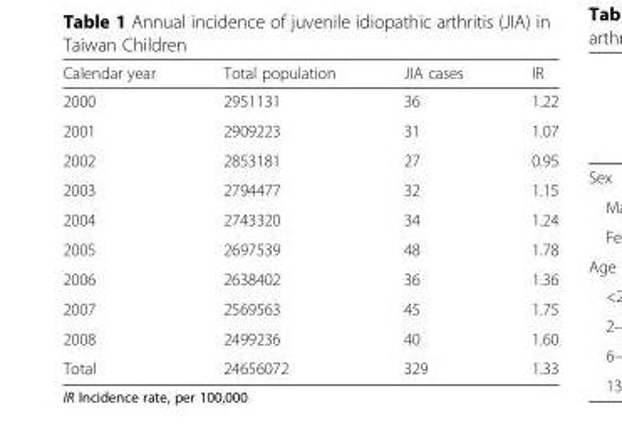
<table><thead><tr><td>Calendar year</td><td>Total population</td><td>JIA cases</td><td>IR</td></tr></thead><tbody><tr><td>2000</td><td>2951131</td><td>36</td><td>1.22</td></tr><tr><td>2001</td><td>2909223</td><td>31</td><td>1.07</td></tr><tr><td>2002</td><td>2853181</td><td>27</td><td>0.95</td></tr><tr><td>2003</td><td>2794477</td><td>32</td><td>1.15</td></tr><tr><td>2004</td><td>2743320</td><td>34</td><td>1.24</td></tr><tr><td>2005</td><td>2697539</td><td>48</td><td>1.78</td></tr><tr><td>2006</td><td>2638402</td><td>36</td><td>1.36</td></tr><tr><td>2007</td><td>2569563</td><td>45</td><td>1.75</td></tr><tr><td>2008</td><td>2499236</td><td>40</td><td>1.60</td></tr><tr><td>Total</td><td>24656072</td><td>329</td><td>1.33</td></tr></tbody></table>